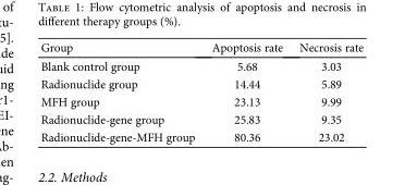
<table><thead><tr><td>Group</td><td>Apoptosis rate</td><td>Necrosis rate</td></tr></thead><tbody><tr><td>Blank control group</td><td>5.68</td><td>3.03</td></tr><tr><td>Radionuclide group</td><td>14.44</td><td>5.89</td></tr><tr><td>MFH group</td><td>23.13</td><td>9.99</td></tr><tr><td>Radionuclide-gene group</td><td>25.83</td><td>9.35</td></tr><tr><td>Radionuclide-gene-MFH group</td><td>80.36</td><td>23.02</td></tr></tbody></table>